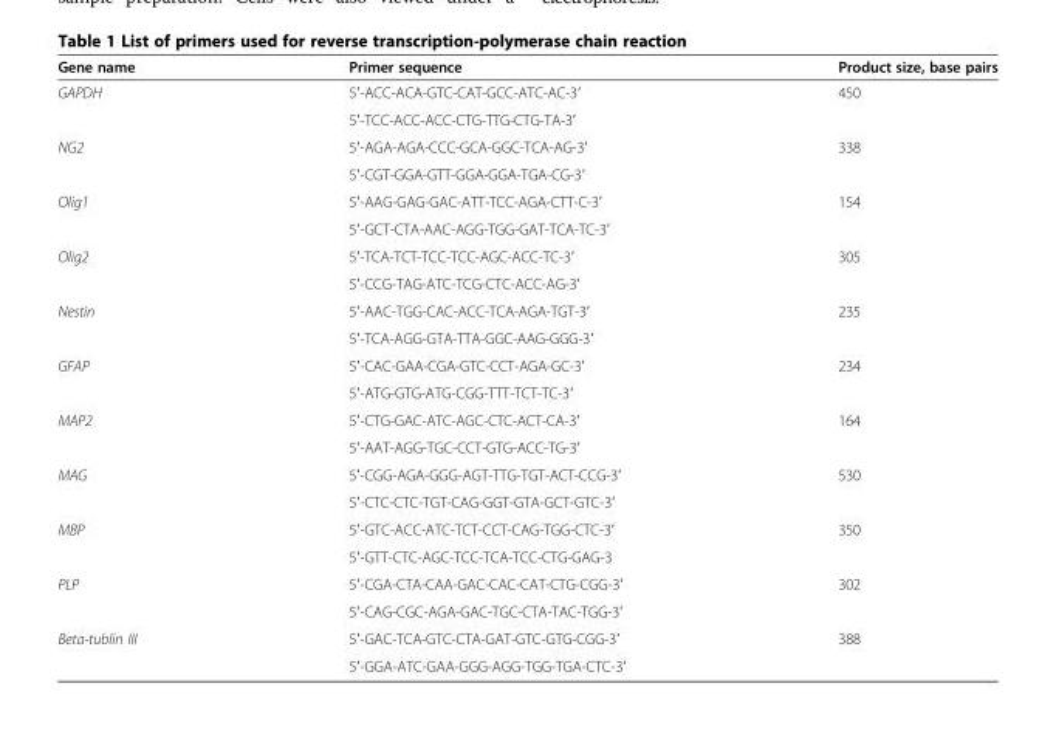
<table><thead><tr><td>Gene name</td><td>Primer sequence</td><td>Product size, base pairs</td></tr></thead><tbody><tr><td rowspan="2">GAPDH</td><td>5′-ACC-ACA-GTC-CAT-GCC-ATC-AC-3′</td><td>450</td></tr><tr><td>5′-TCC-ACC-ACC-CTG-TTG-CTG-TA-3′</td><td></td></tr><tr><td rowspan="2">NG2</td><td>5′-AGA-AGA-CCC-GCA-GGC-TCA-AG-3′</td><td>338</td></tr><tr><td>5′-CGT-GGA-GTT-GGA-GGA-TGA-CG-3′</td><td></td></tr><tr><td rowspan="2">Olig1</td><td>5′-AAG-GAG-GAC-ATT-TCC-AGA-CTT-C-3′</td><td>154</td></tr><tr><td>5′-GCT-CTA-AAC-AGG-TGG-GAT-TCA-TC-3′</td><td></td></tr><tr><td rowspan="2">Olig2</td><td>5′-TCA-TCT-TCC-TCC-AGC-ACC-TC-3′</td><td>305</td></tr><tr><td>5′-CCG-TAG-ATC-TCG-CTC-ACC-AG-3′</td><td></td></tr><tr><td rowspan="2">Nestin</td><td>5′-AAC-TGG-CAC-ACC-TCA-AGA-TGT-3′</td><td>235</td></tr><tr><td>5′-TCA-AGG-GTA-TTA-GGC-AAG-GGG-3′</td><td></td></tr><tr><td rowspan="2">GFAP</td><td>5′-CAC-GAA-CGA-GTC-CCT-AGA-GC-3′</td><td>234</td></tr><tr><td>5′-ATG-GTG-ATG-CGG-TTT-TCT-TC-3′</td><td></td></tr><tr><td rowspan="2">MAP2</td><td>5′-CTG-GAC-ATC-AGC-CTC-ACT-CA-3′</td><td>164</td></tr><tr><td>5′-AAT-AGG-TGC-CCT-GTG-ACC-TG-3′</td><td></td></tr><tr><td rowspan="2">MAG</td><td>5′-CGG-AGA-GGG-AGT-TTG-TGT-ACT-CCG-3′</td><td>530</td></tr><tr><td>5′-CTC-CTC-TGT-CAG-GGT-GTA-GCT-GTC-3′</td><td></td></tr><tr><td rowspan="2">MBP</td><td>5′-GTC-ACC-ATC-TCT-CCT-CAG-TGG-CTC-3′</td><td>350</td></tr><tr><td>5′-GTT-CTC-AGC-TCC-TCA-TCC-CTG-GAG-3</td><td></td></tr><tr><td rowspan="2">PLP</td><td>5′-CGA-CTA-CAA-GAC-CAC-CAT-CTG-CGG-3′</td><td>302</td></tr><tr><td>5′-CAG-CGC-AGA-GAC-TGC-CTA-TAC-TGG-3′</td><td></td></tr><tr><td rowspan="2">Beta-tublin III</td><td>5′-GAC-TCA-GTC-CTA-GAT-GTC-GTG-CGG-3′</td><td>388</td></tr><tr><td>5′-GGA-ATC-GAA-GGG-AGG-TGG-TGA-CTC-3′</td><td></td></tr></tbody></table>